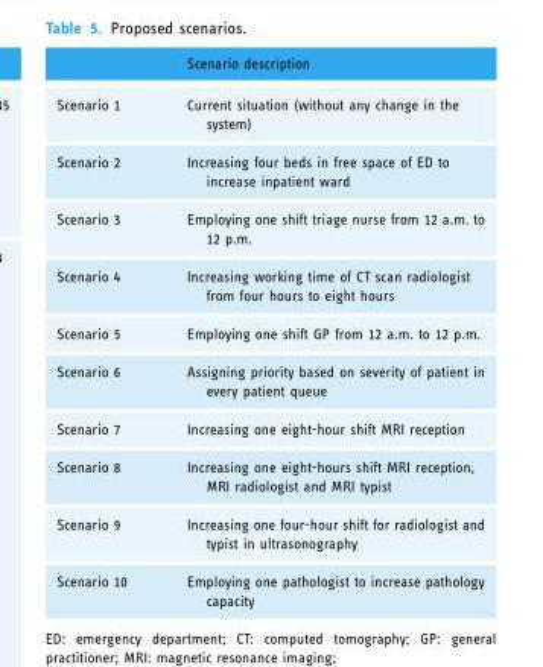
<table><thead><tr><td></td><td>Scenario description</td></tr></thead><tbody><tr><td>Scenario 1</td><td>Current situation (without any change in the system)</td></tr><tr><td>Scenario 2</td><td>Increasing four beds in free space of ED to increase inpatient ward</td></tr><tr><td>Scenario 3</td><td>Employing one shift triage nurse from 12 a.m. to 12 p.m.</td></tr><tr><td>Scenario 4</td><td>Increasing working time of CT scan radiologist from four hours to eight hours</td></tr><tr><td>Scenario 5</td><td>Employing one shift GP from 12 a.m. to 12 p.m.</td></tr><tr><td>Scenario 6</td><td>Assigning priority based on severity of patient in every patient queue</td></tr><tr><td>Scenario 7</td><td>Increasing one eight-hour shift MRI reception</td></tr><tr><td>Scenario 8</td><td>Increasing one eight-hours shift MRI reception, MRI radiologist and MRI typist</td></tr><tr><td>Scenario 9</td><td>Increasing one four-hour shift for radiologist and typist in ultrasonography</td></tr><tr><td>Scenario 10</td><td>Employing one pathologist to increase pathology capacity</td></tr></tbody></table>